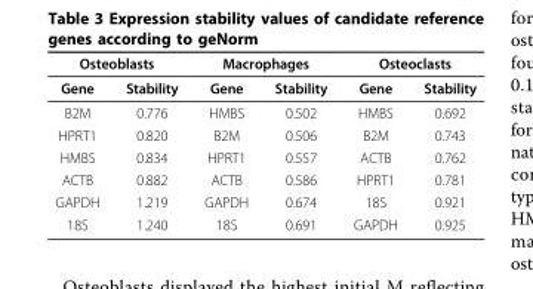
<table><thead><tr><td colspan="2">Osteoblasts</td><td colspan="2">Macrophages</td><td colspan="2">Osteoclasts</td></tr><tr><td>Gene</td><td>Stability</td><td>Gene</td><td>Stability</td><td>Gene</td><td>Stability</td></tr></thead><tbody><tr><td>B2M</td><td>0.776</td><td>HMBS</td><td>0.502</td><td>HMBS</td><td>0.692</td></tr><tr><td>HPRT1</td><td>0.820</td><td>B2M</td><td>0.506</td><td>B2M</td><td>0.743</td></tr><tr><td>HMBS</td><td>0.834</td><td>HPRT1</td><td>0.557</td><td>ACTB</td><td>0.762</td></tr><tr><td>ACTB</td><td>0.882</td><td>ACTB</td><td>0.586</td><td>HPRT1</td><td>0.781</td></tr><tr><td>GAPDH</td><td>1.219</td><td>GAPDH</td><td>0.674</td><td>18S</td><td>0.921</td></tr><tr><td>18S</td><td>1.240</td><td>18S</td><td>0.691</td><td>GAPDH</td><td>0.925</td></tr></tbody></table>